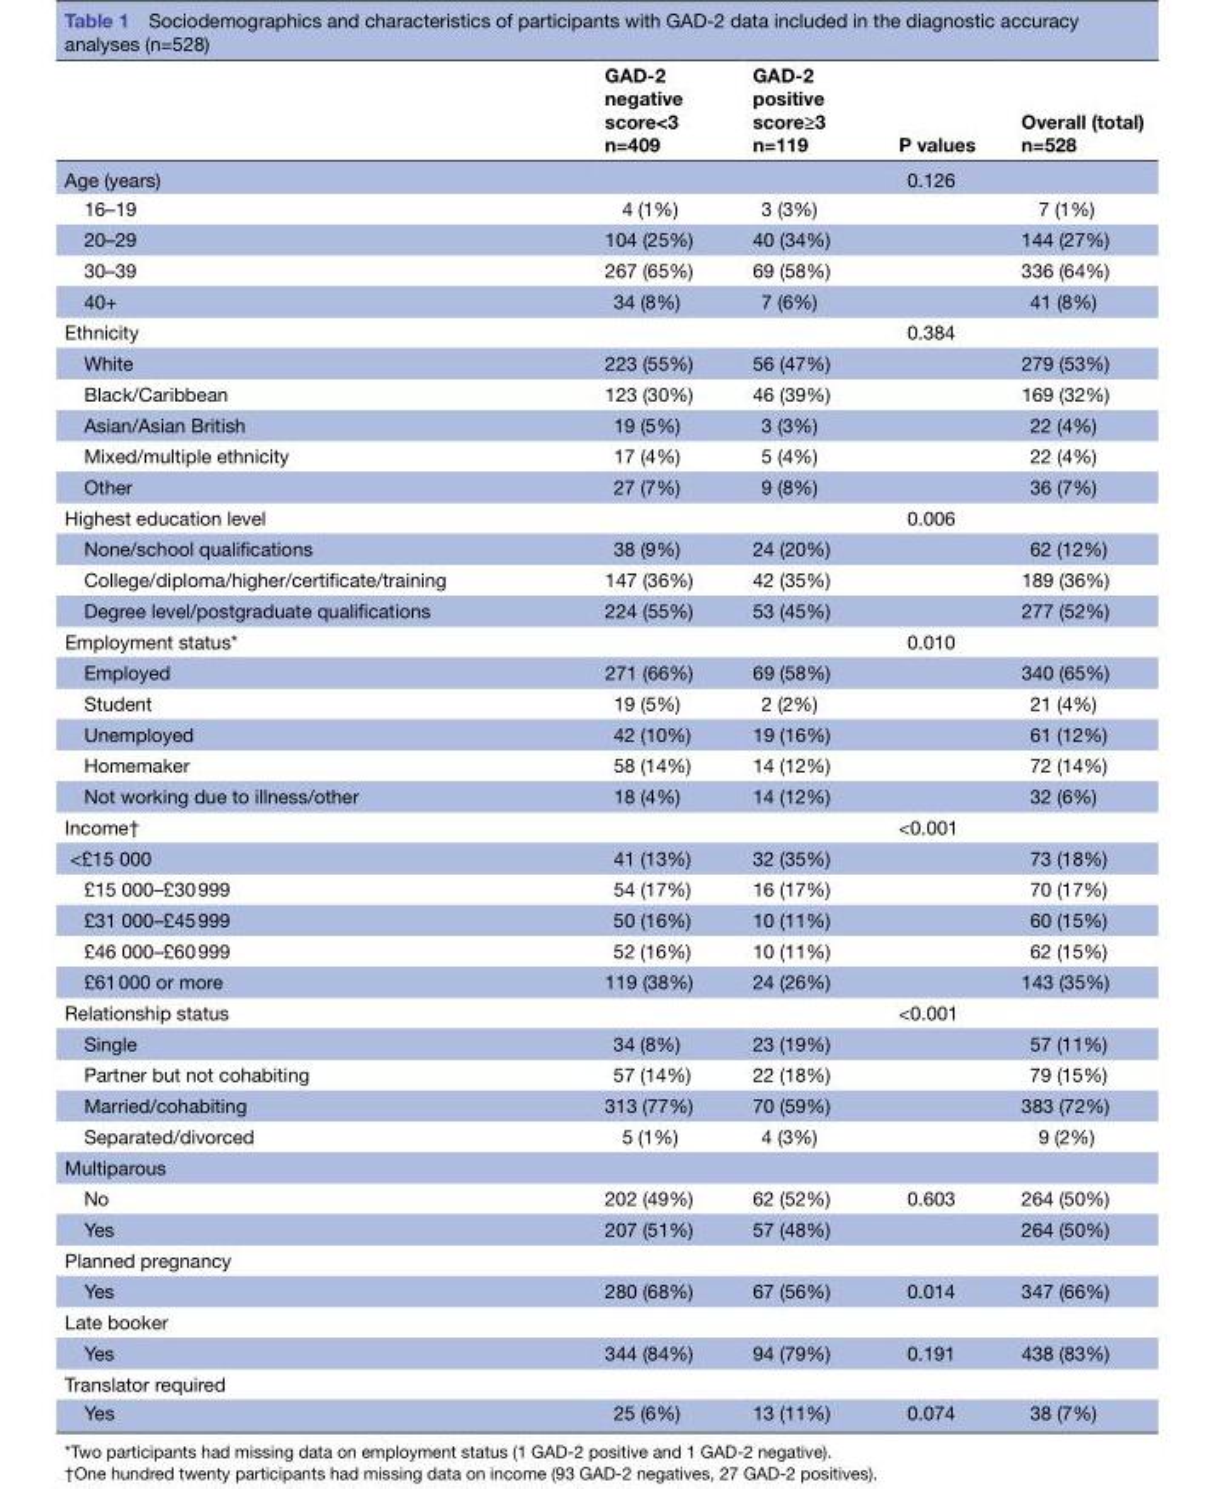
<table><thead><tr><td></td><td>GAD-2 negative score&lt;3 n=409</td><td>GAD-2 positive score≥3 n=119</td><td>P values</td><td>Overall (total) n=528</td></tr></thead><tbody><tr><td>Age (years)</td><td></td><td></td><td>0.126</td><td></td></tr><tr><td>16–19</td><td>4 (1%)</td><td>3 (3%)</td><td></td><td>7 (1%)</td></tr><tr><td>20–29</td><td>104 (25%)</td><td>40 (34%)</td><td></td><td>144 (27%)</td></tr><tr><td>30–39</td><td>267 (65%)</td><td>69 (58%)</td><td></td><td>336 (64%)</td></tr><tr><td>40+</td><td>34 (8%)</td><td>7 (6%)</td><td></td><td>41 (8%)</td></tr><tr><td>Ethnicity</td><td></td><td></td><td>0.384</td><td></td></tr><tr><td>White</td><td>223 (55%)</td><td>56 (47%)</td><td></td><td>279 (53%)</td></tr><tr><td>Black/Caribbean</td><td>123 (30%)</td><td>46 (39%)</td><td></td><td>169 (32%)</td></tr><tr><td>Asian/Asian British</td><td>19 (5%)</td><td>3 (3%)</td><td></td><td>22 (4%)</td></tr><tr><td>Mixed/multiple ethnicity</td><td>17 (4%)</td><td>5 (4%)</td><td></td><td>22 (4%)</td></tr><tr><td>Other</td><td>27 (7%)</td><td>9 (8%)</td><td></td><td>36 (7%)</td></tr><tr><td>Highest education level</td><td></td><td></td><td>0.006</td><td></td></tr><tr><td>None/school qualifications</td><td>38 (9%)</td><td>24 (20%)</td><td></td><td>62 (12%)</td></tr><tr><td>College/diploma/higher/certificate/training</td><td>147 (36%)</td><td>42 (35%)</td><td></td><td>189 (36%)</td></tr><tr><td>Degree level/postgraduate qualifications</td><td>224 (55%)</td><td>53 (45%)</td><td></td><td>277 (52%)</td></tr><tr><td>Employment status*</td><td></td><td></td><td>0.010</td><td></td></tr><tr><td>Employed</td><td>271 (66%)</td><td>69 (58%)</td><td></td><td>340 (65%)</td></tr><tr><td>Student</td><td>19 (5%)</td><td>2 (2%)</td><td></td><td>21 (4%)</td></tr><tr><td>Unemployed</td><td>42 (10%)</td><td>19 (16%)</td><td></td><td>61 (12%)</td></tr><tr><td>Homemaker</td><td>58 (14%)</td><td>14 (12%)</td><td></td><td>72 (14%)</td></tr><tr><td>Not working due to illness/other</td><td>18 (4%)</td><td>14 (12%)</td><td></td><td>32 (6%)</td></tr><tr><td>Income†</td><td></td><td></td><td>&lt;0.001</td><td></td></tr><tr><td>&lt;£15 000</td><td>41 (13%)</td><td>32 (35%)</td><td></td><td>73 (18%)</td></tr><tr><td>£15 000–£30 999</td><td>54 (17%)</td><td>16 (17%)</td><td></td><td>70 (17%)</td></tr><tr><td>£31 000–£45 999</td><td>50 (16%)</td><td>10 (11%)</td><td></td><td>60 (15%)</td></tr><tr><td>£46 000–£60 999</td><td>52 (16%)</td><td>10 (11%)</td><td></td><td>62 (15%)</td></tr><tr><td>£61 000 or more</td><td>119 (38%)</td><td>24 (26%)</td><td></td><td>143 (35%)</td></tr><tr><td>Relationship status</td><td></td><td></td><td>&lt;0.001</td><td></td></tr><tr><td>Single</td><td>34 (8%)</td><td>23 (19%)</td><td></td><td>57 (11%)</td></tr><tr><td>Partner but not cohabiting</td><td>57 (14%)</td><td>22 (18%)</td><td></td><td>79 (15%)</td></tr><tr><td>Married/cohabiting</td><td>313 (77%)</td><td>70 (59%)</td><td></td><td>383 (72%)</td></tr><tr><td>Separated/divorced</td><td>5 (1%)</td><td>4 (3%)</td><td></td><td>9 (2%)</td></tr><tr><td colspan="5">Multiparous</td></tr><tr><td>No</td><td>202 (49%)</td><td>62 (52%)</td><td>0.603</td><td>264 (50%)</td></tr><tr><td>Yes</td><td>207 (51%)</td><td>57 (48%)</td><td></td><td>264 (50%)</td></tr><tr><td colspan="5">Planned pregnancy</td></tr><tr><td>Yes</td><td>280 (68%)</td><td>67 (56%)</td><td>0.014</td><td>347 (66%)</td></tr><tr><td colspan="5">Late booker</td></tr><tr><td>Yes</td><td>344 (84%)</td><td>94 (79%)</td><td>0.191</td><td>438 (83%)</td></tr><tr><td colspan="5">Translator required</td></tr><tr><td>Yes</td><td>25 (6%)</td><td>13 (11%)</td><td>0.074</td><td>38 (7%)</td></tr></tbody></table>